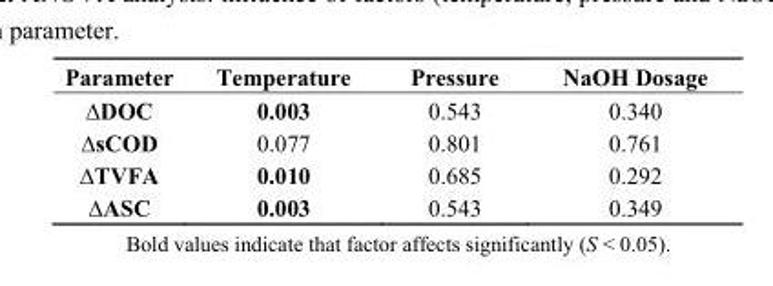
<table><thead><tr><td>Parameter</td><td>Temperature</td><td>Pressure</td><td>NaOH Dosage</td></tr></thead><tbody><tr><td>∆DOC</td><td>0.003</td><td>0.543</td><td>0.340</td></tr><tr><td>∆sCOD</td><td>0.077</td><td>0.801</td><td>0.761</td></tr><tr><td>∆TVFA</td><td>0.010</td><td>0.685</td><td>0.292</td></tr><tr><td>∆ASC</td><td>0.003</td><td>0.543</td><td>0.349</td></tr></tbody></table>